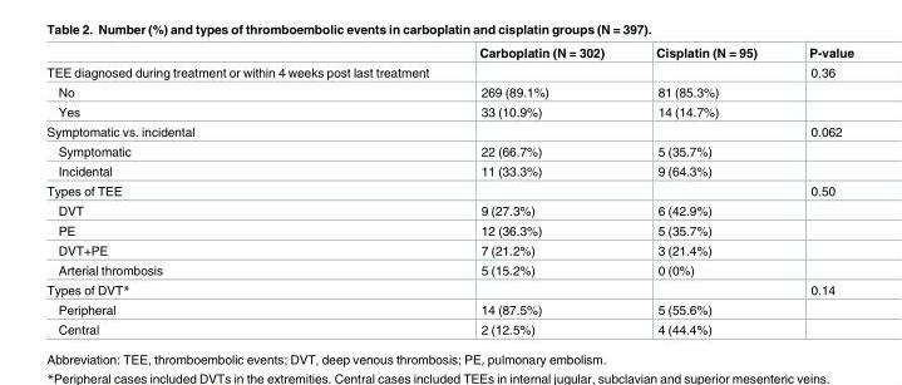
<table><thead><tr><td></td><td>Carboplatin (N = 302)</td><td>Cisplatin (N = 95)</td><td>P-value</td></tr></thead><tbody><tr><td>TEE diagnosed during treatment or within 4 weeks post last treatment</td><td></td><td></td><td>0.36</td></tr><tr><td>No</td><td>269 (89.1%)</td><td>81 (85.3%)</td><td></td></tr><tr><td>Yes</td><td>33 (10.9%)</td><td>14 (14.7%)</td><td></td></tr><tr><td>Symptomatic vs. incidental</td><td></td><td></td><td>0.062</td></tr><tr><td>Symptomatic</td><td>22 (66.7%)</td><td>5 (35.7%)</td><td></td></tr><tr><td>Incidental</td><td>11 (33.3%)</td><td>9 (64.3%)</td><td></td></tr><tr><td>Types of TEE</td><td></td><td></td><td>0.50</td></tr><tr><td>DVT</td><td>9 (27.3%)</td><td>6 (42.9%)</td><td></td></tr><tr><td>PE</td><td>12 (36.3%)</td><td>5 (35.7%)</td><td></td></tr><tr><td>DVT+PE</td><td>7 (21.2%)</td><td>3 (21.4%)</td><td></td></tr><tr><td>Arterial thrombosis</td><td>5 (15.2%)</td><td>0 (0%)</td><td></td></tr><tr><td>Types of DVT*</td><td></td><td></td><td>0.14</td></tr><tr><td>Peripheral</td><td>14 (87.5%)</td><td>5 (55.6%)</td><td></td></tr><tr><td>Central</td><td>2 (12.5%)</td><td>4 (44.4%)</td><td></td></tr></tbody></table>